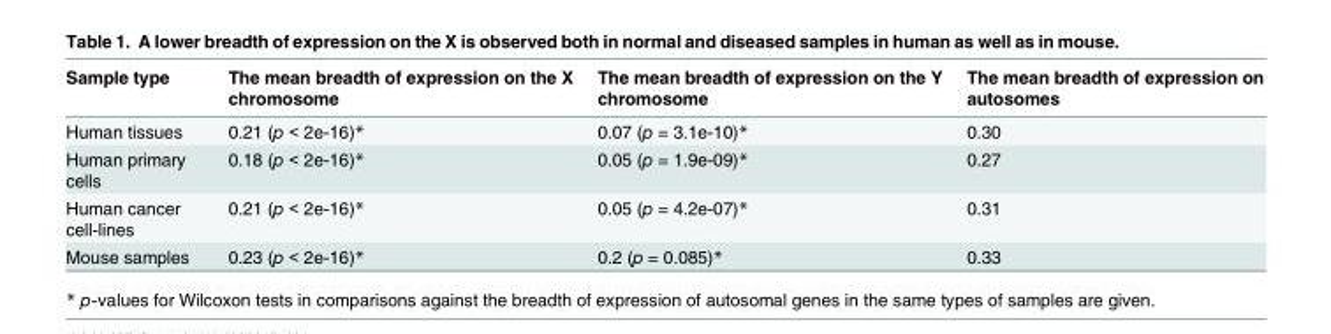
<table><thead><tr><td>Sample type</td><td>The mean breadth of expression on the X chromosome</td><td>The mean breadth of expression on the Y chromosome</td><td>The mean breadth of expression on autosomes</td></tr></thead><tbody><tr><td>Human tissues</td><td>0.21 (p &lt; 2e-16)*</td><td>0.07 (p = 3.1e-10)*</td><td>0.30</td></tr><tr><td>Human primary cells</td><td>0.18 (p &lt; 2e-16)*</td><td>0.05 (p = 1.9e-09)*</td><td>0.27</td></tr><tr><td>Human cancer cell-lines</td><td>0.21 (p &lt; 2e-16)*</td><td>0.05 (p = 4.2e-07)*</td><td>0.31</td></tr><tr><td>Mouse samples</td><td>0.23 (p &lt; 2e-16)*</td><td>0.2 (p = 0.085)*</td><td>0.33</td></tr></tbody></table>